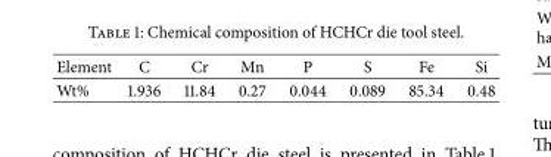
<table><thead><tr><td>Element</td><td>C</td><td>Cr</td><td>Mn</td><td>P</td><td>S</td><td>Fe</td><td>Si</td></tr></thead><tbody><tr><td>Wt%</td><td>1.936</td><td>11.84</td><td>0.27</td><td>0.044</td><td>0.089</td><td>85.34</td><td>0.48</td></tr></tbody></table>